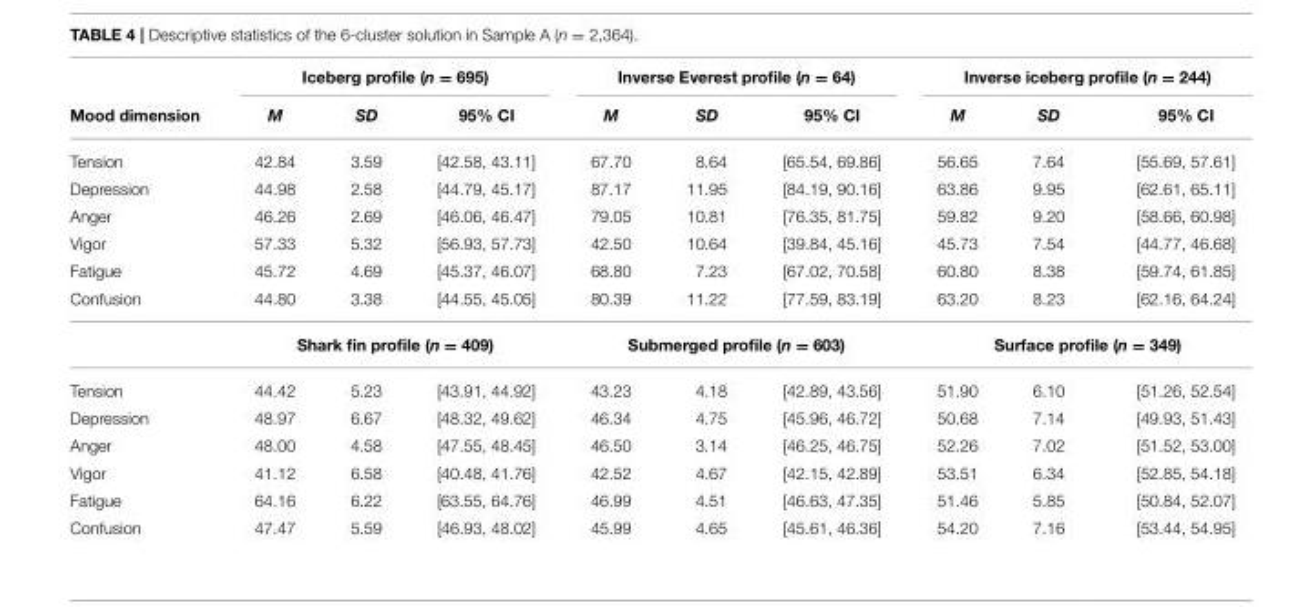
<table><thead><tr><td rowspan="2">Mood dimension</td><td colspan="3">Iceberg profile (n = 695)</td><td colspan="3">Inverse Everest profile (n = 64)</td><td colspan="3">Inverse iceberg profile (n = 244)</td></tr><tr><td>M</td><td>SD</td><td>95% CI</td><td>M</td><td>SD</td><td>95% CI</td><td>M</td><td>SD</td><td>95% CI</td></tr></thead><tbody><tr><td>Tension</td><td>42.84</td><td>3.59</td><td>[42.58, 43.11]</td><td>67.70</td><td>8.64</td><td>[65.54, 69.86]</td><td>56.65</td><td>7.64</td><td>[55.69, 57.61]</td></tr><tr><td>Depression</td><td>44.98</td><td>2.58</td><td>[44.79, 45.17]</td><td>87.17</td><td>11.95</td><td>[84.19, 90.16]</td><td>63.86</td><td>9.95</td><td>[62.61, 65.11]</td></tr><tr><td>Anger</td><td>46.26</td><td>2.69</td><td>[46.06, 46.47]</td><td>79.05</td><td>10.81</td><td>[76.35, 81.75]</td><td>59.82</td><td>9.20</td><td>[58.66, 60.98]</td></tr><tr><td>Vigor</td><td>57.33</td><td>5.32</td><td>[56.93, 57.73]</td><td>42.50</td><td>10.64</td><td>[39.84, 45.16]</td><td>45.73</td><td>7.54</td><td>[44.77, 46.68]</td></tr><tr><td>Fatigue</td><td>45.72</td><td>4.69</td><td>[45.37, 46.07]</td><td>68.80</td><td>7.23</td><td>[67.02, 70.58]</td><td>60.80</td><td>8.38</td><td>[59.74, 61.85]</td></tr><tr><td rowspan="2">Confusion</td><td>44.80</td><td>3.38</td><td>[44.55, 45.05]</td><td>80.39</td><td>11.22</td><td>[77.59, 83.19]</td><td>63.20</td><td>8.23</td><td>[62.16, 64.24]</td></tr><tr><td colspan="3">Shark fin profile (n = 409)</td><td colspan="3">Submerged profile (n = 603)</td><td colspan="3">Surface profile (n = 349)</td></tr><tr><td>Tension</td><td>44.42</td><td>5.23</td><td>[43.91, 44.92]</td><td>43.23</td><td>4.18</td><td>[42.89, 43.56]</td><td>51.90</td><td>6.10</td><td>[51.26, 52.54]</td></tr><tr><td>Depression</td><td>48.97</td><td>6.67</td><td>[48.32, 49.62]</td><td>46.34</td><td>4.75</td><td>[45.96, 46.72]</td><td>50.68</td><td>7.14</td><td>[49.93, 51.43]</td></tr><tr><td>Anger</td><td>48.00</td><td>4.58</td><td>[47.55, 48.45]</td><td>46.50</td><td>3.14</td><td>[46.25, 46.75]</td><td>52.26</td><td>7.02</td><td>[51.52, 53.00]</td></tr><tr><td>Vigor</td><td>41.12</td><td>6.58</td><td>[40.48, 41.76]</td><td>42.52</td><td>4.67</td><td>[42.15, 42.89]</td><td>53.51</td><td>6.34</td><td>[52.85, 54.18]</td></tr><tr><td>Fatigue</td><td>64.16</td><td>6.22</td><td>[63.55, 64.76]</td><td>46.99</td><td>4.51</td><td>[46.63, 47.35]</td><td>51.46</td><td>5.85</td><td>[50.84, 52.07]</td></tr><tr><td>Confusion</td><td>47.47</td><td>5.59</td><td>[46.93, 48.02]</td><td>45.99</td><td>4.65</td><td>[45.61, 46.36]</td><td>54.20</td><td>7.16</td><td>[53.44, 54.95]</td></tr></tbody></table>